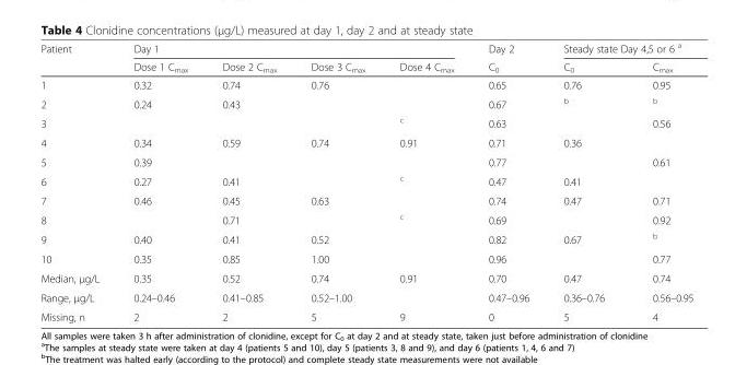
<table><thead><tr><td rowspan="2">Patient</td><td colspan="4">Day 1</td><td rowspan="2">Day 2 C<sub>0</sub></td><td colspan="2">Steady state Day 4,5 or 6 <sup>a</sup></td></tr><tr><td>Dose 1 C<sub>max</sub></td><td>Dose 2 C<sub>max</sub></td><td>Dose 3 C<sub>max</sub></td><td>Dose 4 C<sub>max</sub></td><td>C<sub>0</sub></td><td>C<sub>max</sub></td></tr></thead><tbody><tr><td>1</td><td>0.32</td><td>0.74</td><td>0.76</td><td></td><td>0.65</td><td>0.76</td><td>0.95</td></tr><tr><td>2</td><td>0.24</td><td>0.43</td><td></td><td></td><td>0.67</td><td><sup>b</sup></td><td><sup>b</sup></td></tr><tr><td>3</td><td></td><td></td><td></td><td><sup>c</sup></td><td>0.63</td><td></td><td>0.56</td></tr><tr><td>4</td><td>0.34</td><td>0.59</td><td>0.74</td><td>0.91</td><td>0.71</td><td>0.36</td><td></td></tr><tr><td>5</td><td>0.39</td><td></td><td></td><td></td><td>0.77</td><td></td><td>0.61</td></tr><tr><td>6</td><td>0.27</td><td>0.41</td><td></td><td><sup>c</sup></td><td>0.47</td><td>0.41</td><td></td></tr><tr><td>7</td><td>0.46</td><td>0.45</td><td>0.63</td><td></td><td>0.74</td><td>0.47</td><td>0.71</td></tr><tr><td>8</td><td></td><td>0.71</td><td></td><td><sup>c</sup></td><td>0.69</td><td></td><td>0.92</td></tr><tr><td>9</td><td>0.40</td><td>0.41</td><td>0.52</td><td></td><td>0.82</td><td>0.67</td><td><sup>b</sup></td></tr><tr><td>10</td><td>0.35</td><td>0.85</td><td>1.00</td><td></td><td>0.96</td><td></td><td>0.77</td></tr><tr><td>Median, μg/L</td><td>0.35</td><td>0.52</td><td>0.74</td><td>0.91</td><td>0.70</td><td>0.47</td><td>0.74</td></tr><tr><td>Range, μg/L</td><td>0.24–0.46</td><td>0.41–0.85</td><td>0.52–1.00</td><td></td><td>0.47–0.96</td><td>0.36–0.76</td><td>0.56–0.95</td></tr><tr><td>Missing, n</td><td>2</td><td>2</td><td>5</td><td>9</td><td>0</td><td>5</td><td>4</td></tr></tbody></table>